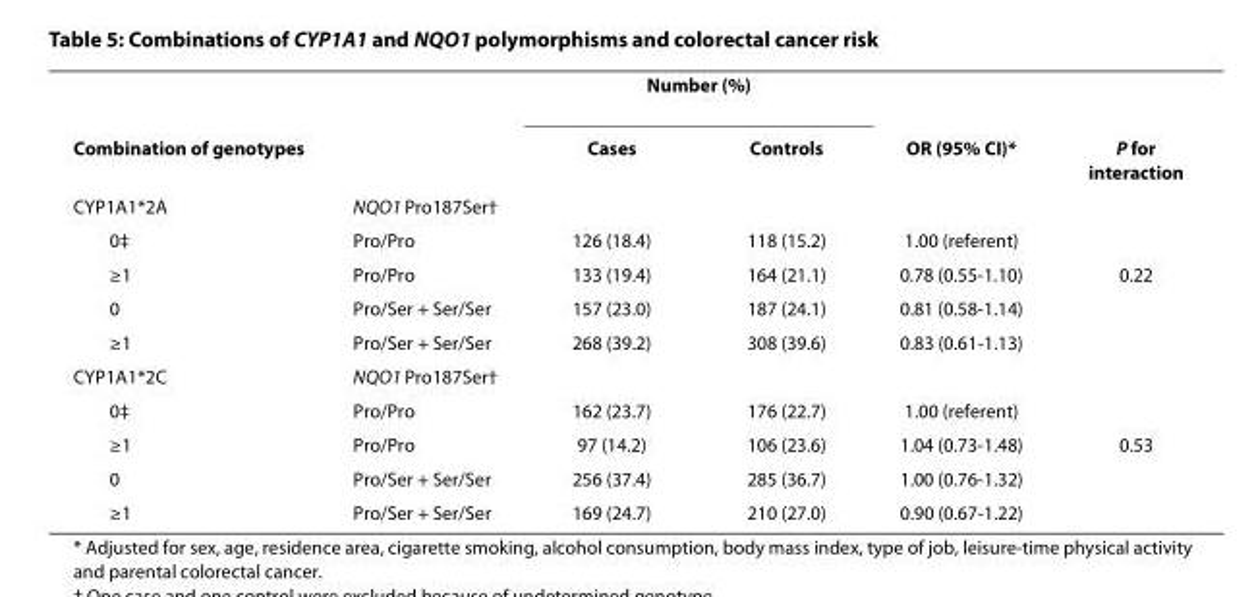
<table><thead><tr><td rowspan="2">Combination of genotypes</td><td rowspan="2"></td><td colspan="2">Number (%)</td><td rowspan="2">OR (95% CI)*</td><td rowspan="2">P for interaction</td></tr><tr><td>Cases</td><td>Controls</td></tr></thead><tbody><tr><td>CYP1A1*2A</td><td>NQO1 Pro187Ser†</td><td></td><td></td><td></td><td></td></tr><tr><td>0‡</td><td>Pro/Pro</td><td>126 (18.4)</td><td>118 (15.2)</td><td>1.00 (referent)</td><td></td></tr><tr><td>≥1</td><td>Pro/Pro</td><td>133 (19.4)</td><td>164 (21.1)</td><td>0.78 (0.55-1.10)</td><td>0.22</td></tr><tr><td>0</td><td>Pro/Ser + Ser/Ser</td><td>157 (23.0)</td><td>187 (24.1)</td><td>0.81 (0.58-1.14)</td><td></td></tr><tr><td>≥1</td><td>Pro/Ser + Ser/Ser</td><td>268 (39.2)</td><td>308 (39.6)</td><td>0.83 (0.61-1.13)</td><td></td></tr><tr><td>CYP1A1*2C</td><td>NQO1 Pro187Ser†</td><td></td><td></td><td></td><td></td></tr><tr><td>0‡</td><td>Pro/Pro</td><td>162 (23.7)</td><td>176 (22.7)</td><td>1.00 (referent)</td><td></td></tr><tr><td>≥1</td><td>Pro/Pro</td><td>97 (14.2)</td><td>106 (23.6)</td><td>1.04 (0.73-1.48)</td><td>0.53</td></tr><tr><td>0</td><td>Pro/Ser + Ser/Ser</td><td>256 (37.4)</td><td>285 (36.7)</td><td>1.00 (0.76-1.32)</td><td></td></tr><tr><td>≥1</td><td>Pro/Ser + Ser/Ser</td><td>169 (24.7)</td><td>210 (27.0)</td><td>0.90 (0.67-1.22)</td><td></td></tr></tbody></table>